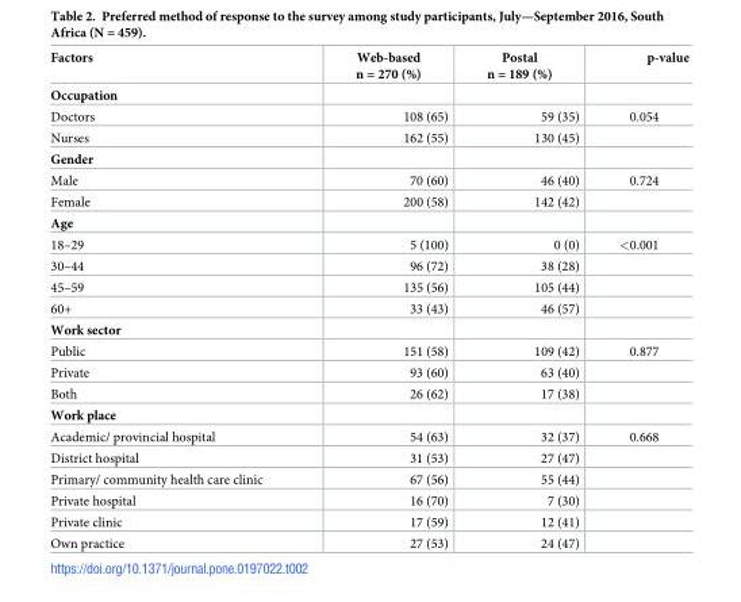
<table><thead><tr><td>Factors</td><td>Web-based n = 270 (%)</td><td>Postal n = 189 (%)</td><td>p-value</td></tr></thead><tbody><tr><td colspan="4">Occupation</td></tr><tr><td>Doctors</td><td>108 (65)</td><td>59 (35)</td><td>0.054</td></tr><tr><td>Nurses</td><td>162 (55)</td><td>130 (45)</td><td></td></tr><tr><td colspan="4">Gender</td></tr><tr><td>Male</td><td>70 (60)</td><td>46 (40)</td><td>0.724</td></tr><tr><td>Female</td><td>200 (58)</td><td>142 (42)</td><td></td></tr><tr><td colspan="4">Age</td></tr><tr><td>18–29</td><td>5 (100)</td><td>0 (0)</td><td>&lt;0.001</td></tr><tr><td>30–44</td><td>96 (72)</td><td>38 (28)</td><td></td></tr><tr><td>45–59</td><td>135 (56)</td><td>105 (44)</td><td></td></tr><tr><td>60+</td><td>33 (43)</td><td>46 (57)</td><td></td></tr><tr><td colspan="4">Work sector</td></tr><tr><td>Public</td><td>151 (58)</td><td>109 (42)</td><td>0.877</td></tr><tr><td>Private</td><td>93 (60)</td><td>63 (40)</td><td></td></tr><tr><td>Both</td><td>26 (62)</td><td>17 (38)</td><td></td></tr><tr><td colspan="4">Work place</td></tr><tr><td>Academic/ provincial hospital</td><td>54 (63)</td><td>32 (37)</td><td>0.668</td></tr><tr><td>District hospital</td><td>31 (53)</td><td>27 (47)</td><td></td></tr><tr><td>Primary/ community health care clinic</td><td>67 (56)</td><td>55 (44)</td><td></td></tr><tr><td>Private hospital</td><td>16 (70)</td><td>7 (30)</td><td></td></tr><tr><td>Private clinic</td><td>17 (59)</td><td>12 (41)</td><td></td></tr><tr><td>Own practice</td><td>27 (53)</td><td>24 (47)</td><td></td></tr></tbody></table>